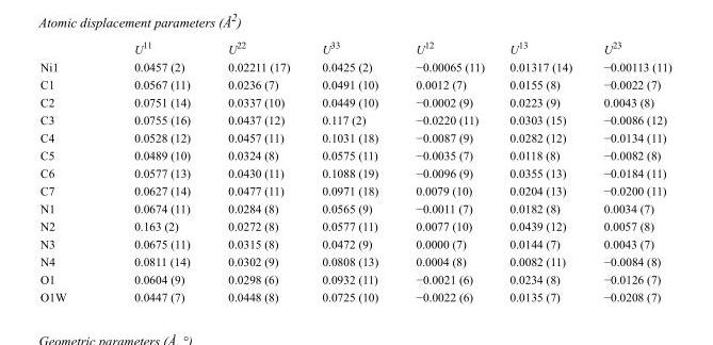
<table><thead><tr><td></td><td>U<sup>11</sup></td><td>U<sup>22</sup></td><td>U<sup>33</sup></td><td>U<sup>12</sup></td><td>U<sup>13</sup></td><td>U<sup>23</sup></td></tr></thead><tbody><tr><td>Ni1</td><td>0.0457 (2)</td><td>0.02211 (17)</td><td>0.0425 (2)</td><td>−0.00065 (11)</td><td>0.01317 (14)</td><td>−0.00113 (11)</td></tr><tr><td>C1</td><td>0.0567 (11)</td><td>0.0236 (7)</td><td>0.0491 (10)</td><td>0.0012 (7)</td><td>0.0155 (8)</td><td>−0.0022 (7)</td></tr><tr><td>C2</td><td>0.0751 (14)</td><td>0.0337 (10)</td><td>0.0449 (10)</td><td>−0.0002 (9)</td><td>0.0223 (9)</td><td>0.0043 (8)</td></tr><tr><td>C3</td><td>0.0755 (16)</td><td>0.0437 (12)</td><td>0.117 (2)</td><td>−0.0220 (11)</td><td>0.0303 (15)</td><td>−0.0086 (12)</td></tr><tr><td>C4</td><td>0.0528 (12)</td><td>0.0457 (11)</td><td>0.1031 (18)</td><td>−0.0087 (9)</td><td>0.0282 (12)</td><td>−0.0134 (11)</td></tr><tr><td>C5</td><td>0.0489 (10)</td><td>0.0324 (8)</td><td>0.0575 (11)</td><td>−0.0035 (7)</td><td>0.0118 (8)</td><td>−0.0082 (8)</td></tr><tr><td>C6</td><td>0.0577 (13)</td><td>0.0430 (11)</td><td>0.1088 (19)</td><td>−0.0096 (9)</td><td>0.0355 (13)</td><td>−0.0184 (11)</td></tr><tr><td>C7</td><td>0.0627 (14)</td><td>0.0477 (11)</td><td>0.0971 (18)</td><td>0.0079 (10)</td><td>0.0204 (13)</td><td>−0.0200 (11)</td></tr><tr><td>N1</td><td>0.0674 (11)</td><td>0.0284 (8)</td><td>0.0565 (9)</td><td>−0.0011 (7)</td><td>0.0182 (8)</td><td>0.0034 (7)</td></tr><tr><td>N2</td><td>0.163 (2)</td><td>0.0272 (8)</td><td>0.0577 (11)</td><td>0.0077 (10)</td><td>0.0439 (12)</td><td>0.0057 (8)</td></tr><tr><td>N3</td><td>0.0675 (11)</td><td>0.0315 (8)</td><td>0.0472 (9)</td><td>0.0000 (7)</td><td>0.0144 (7)</td><td>0.0043 (7)</td></tr><tr><td>N4</td><td>0.0811 (14)</td><td>0.0302 (9)</td><td>0.0808 (13)</td><td>0.0004 (8)</td><td>0.0082 (11)</td><td>−0.0084 (8)</td></tr><tr><td>O1</td><td>0.0604 (9)</td><td>0.0298 (6)</td><td>0.0932 (11)</td><td>−0.0021 (6)</td><td>0.0234 (8)</td><td>−0.0126 (7)</td></tr><tr><td>O1W</td><td>0.0447 (7)</td><td>0.0448 (8)</td><td>0.0725 (10)</td><td>−0.0022 (6)</td><td>0.0135 (7)</td><td>−0.0208 (7)</td></tr></tbody></table>